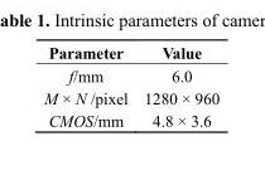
<table><thead><tr><td>Parameter</td><td>Value</td></tr></thead><tbody><tr><td>f/mm</td><td>6.0</td></tr><tr><td>M × N /pixel</td><td>1280 × 960</td></tr><tr><td>CMOS/mm</td><td>4.8 × 3.6</td></tr></tbody></table>